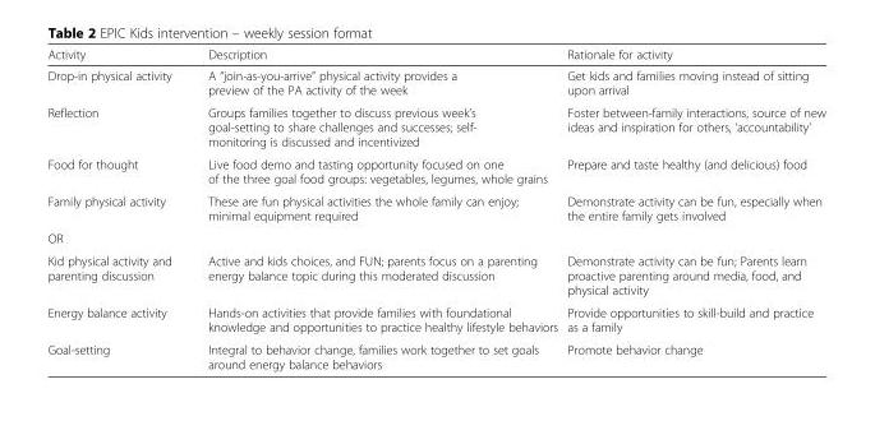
<table><thead><tr><td>Activity</td><td>Description</td><td>Rationale for activity</td></tr></thead><tbody><tr><td>Drop-in physical activity</td><td>A “join-as-you-arrive” physical activity provides a preview of the PA activity of the week</td><td>Get kids and families moving instead of sitting upon arrival</td></tr><tr><td>Reflection</td><td>Groups families together to discuss previous week’s goal-setting to share challenges and successes; self- monitoring is discussed and incentivized</td><td>Foster between-family interactions, source of new ideas and inspiration for others, ‘accountability’</td></tr><tr><td>Food for thought</td><td>Live food demo and tasting opportunity focused on one of the three goal food groups: vegetables, legumes, whole grains</td><td>Prepare and taste healthy (and delicious) food</td></tr><tr><td>Family physical activity</td><td>These are fun physical activities the whole family can enjoy; minimal equipment required</td><td>Demonstrate activity can be fun, especially when the entire family gets involved</td></tr><tr><td colspan="3">OR</td></tr><tr><td>Kid physical activity and parenting discussion</td><td>Active and kids choices, and FUN; parents focus on a parenting energy balance topic during this moderated discussion</td><td>Demonstrate activity can be fun; Parents learn proactive parenting around media, food, and physical activity</td></tr><tr><td>Energy balance activity</td><td>Hands-on activities that provide families with foundational knowledge and opportunities to practice healthy lifestyle behaviors</td><td>Provide opportunities to skill-build and practice as a family</td></tr><tr><td>Goal-setting</td><td>Integral to behavior change, families work together to set goals around energy balance behaviors</td><td>Promote behavior change</td></tr></tbody></table>